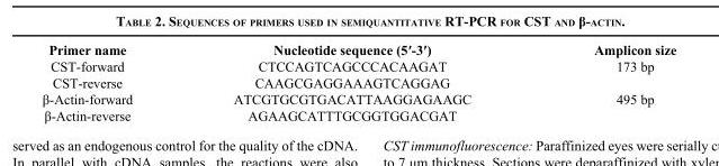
<table><thead><tr><td>Primer name</td><td>Nucleotide sequence (5′-3′)</td><td>Amplicon size</td></tr></thead><tbody><tr><td>CST-forward</td><td>CTCCAGTCAGCCCACAAGAT</td><td>173 bp</td></tr><tr><td>CST-reverse</td><td>CAAGCGAGGAAAGTCAGGAG</td><td></td></tr><tr><td>β-Actin-forward</td><td>ATCGTGCGTGACATTAAGGAGAAGC</td><td>495 bp</td></tr><tr><td>β-Actin-reverse</td><td>AGAAGCATTTGCGGTGGACGAT</td><td></td></tr></tbody></table>